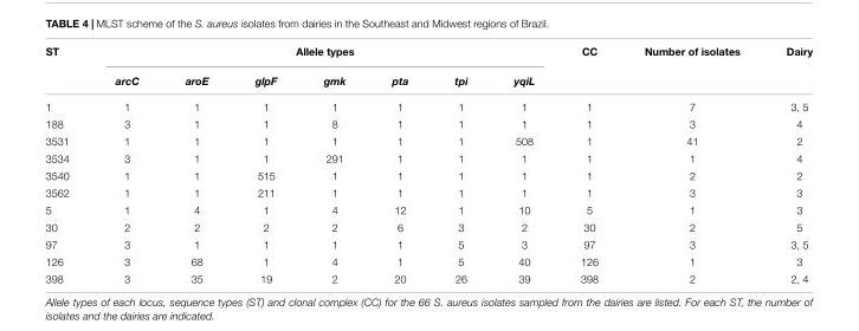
<table><thead><tr><td rowspan="2">ST</td><td colspan="7">Allele types</td><td rowspan="2">CC</td><td rowspan="2">Number of isolates</td><td rowspan="2">Dairy</td></tr><tr><td>arcC</td><td>aroE</td><td>glpF</td><td>gmk</td><td>pta</td><td>tpi</td><td>yqiL</td></tr></thead><tbody><tr><td>1</td><td>1</td><td>1</td><td>1</td><td>1</td><td>1</td><td>1</td><td>1</td><td>1</td><td>7</td><td>3, 5</td></tr><tr><td>188</td><td>3</td><td>1</td><td>1</td><td>8</td><td>1</td><td>1</td><td>1</td><td>1</td><td>3</td><td>4</td></tr><tr><td>3531</td><td>1</td><td>1</td><td>1</td><td>1</td><td>1</td><td>1</td><td>508</td><td>1</td><td>41</td><td>2</td></tr><tr><td>3534</td><td>3</td><td>1</td><td>1</td><td>291</td><td>1</td><td>1</td><td>1</td><td>1</td><td>1</td><td>4</td></tr><tr><td>3540</td><td>1</td><td>1</td><td>515</td><td>1</td><td>1</td><td>1</td><td>1</td><td>1</td><td>2</td><td>2</td></tr><tr><td>3562</td><td>1</td><td>1</td><td>211</td><td>1</td><td>1</td><td>1</td><td>1</td><td>1</td><td>3</td><td>3</td></tr><tr><td>5</td><td>1</td><td>4</td><td>1</td><td>4</td><td>12</td><td>1</td><td>10</td><td>5</td><td>1</td><td>3</td></tr><tr><td>30</td><td>2</td><td>2</td><td>2</td><td>2</td><td>6</td><td>3</td><td>2</td><td>30</td><td>2</td><td>5</td></tr><tr><td>97</td><td>3</td><td>1</td><td>1</td><td>1</td><td>1</td><td>5</td><td>3</td><td>97</td><td>3</td><td>3, 5</td></tr><tr><td>126</td><td>3</td><td>68</td><td>1</td><td>4</td><td>1</td><td>5</td><td>40</td><td>126</td><td>1</td><td>3</td></tr><tr><td>398</td><td>3</td><td>35</td><td>19</td><td>2</td><td>20</td><td>26</td><td>39</td><td>398</td><td>2</td><td>2, 4</td></tr></tbody></table>